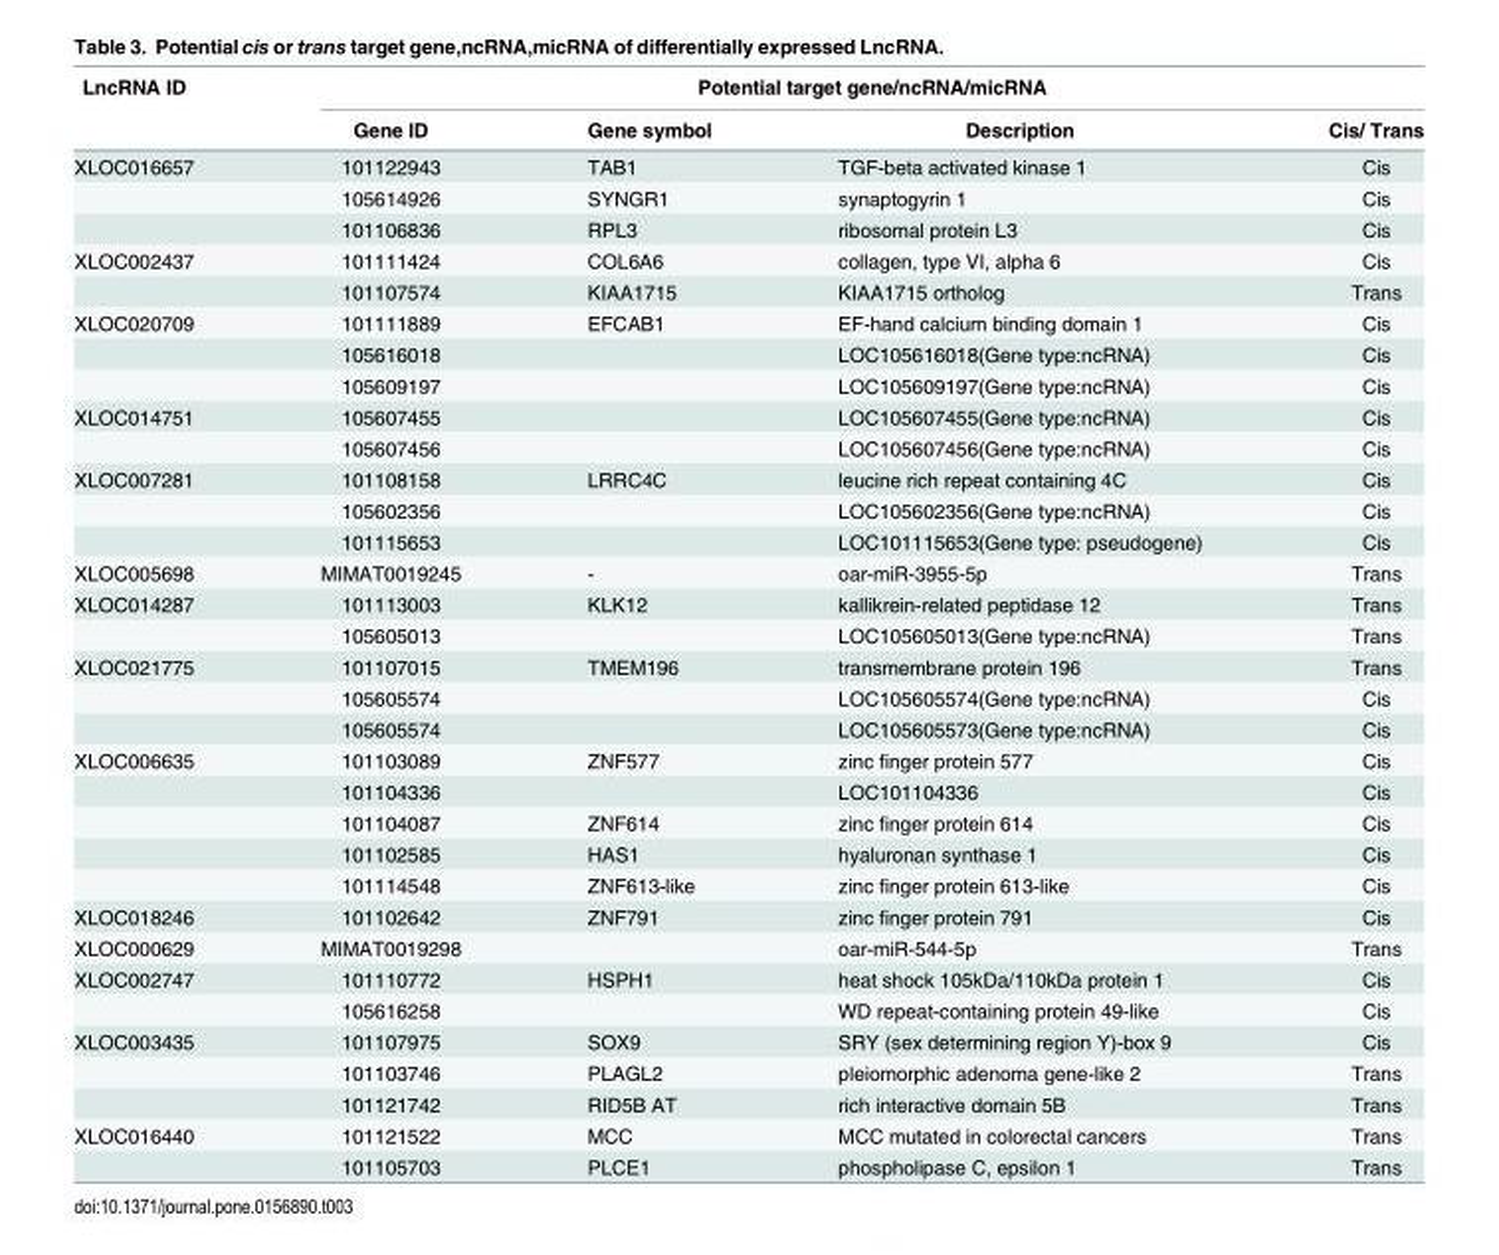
<table><thead><tr><td rowspan="2">LncRNA ID</td><td colspan="4">Potential target gene/ncRNA/micRNA</td></tr><tr><td>Gene ID</td><td>Gene symbol</td><td>Description</td><td>Cis/ Trans</td></tr></thead><tbody><tr><td rowspan="3">XLOC016657</td><td>101122943</td><td>TAB1</td><td>TGF-beta activated kinase 1</td><td>Cis</td></tr><tr><td>105614926</td><td>SYNGR1</td><td>synaptogyrin 1</td><td>Cis</td></tr><tr><td>101106836</td><td>RPL3</td><td>ribosomal protein L3</td><td>Cis</td></tr><tr><td rowspan="2">XLOC002437</td><td>101111424</td><td>COL6A6</td><td>collagen, type VI, alpha 6</td><td>Cis</td></tr><tr><td>101107574</td><td>KIAA1715</td><td>KIAA1715 ortholog</td><td>Trans</td></tr><tr><td rowspan="3">XLOC020709</td><td>101111889</td><td>EFCAB1</td><td>EF-hand calcium binding domain 1</td><td>Cis</td></tr><tr><td>105616018</td><td></td><td>LOC105616018(Gene type:ncRNA)</td><td>Cis</td></tr><tr><td>105609197</td><td></td><td>LOC105609197(Gene type:ncRNA)</td><td>Cis</td></tr><tr><td rowspan="2">XLOC014751</td><td>105607455</td><td></td><td>LOC105607455(Gene type:ncRNA)</td><td>Cis</td></tr><tr><td>105607456</td><td></td><td>LOC105607456(Gene type:ncRNA)</td><td>Cis</td></tr><tr><td rowspan="3">XLOC007281</td><td>101108158</td><td>LRRC4C</td><td>leucine rich repeat containing 4C</td><td>Cis</td></tr><tr><td>105602356</td><td></td><td>LOC105602356(Gene type:ncRNA)</td><td>Cis</td></tr><tr><td>101115653</td><td></td><td>LOC101115653(Gene type: pseudogene)</td><td>Cis</td></tr><tr><td>XLOC005698</td><td>MIMAT0019245</td><td>-</td><td>oar-miR-3955-5p</td><td>Trans</td></tr><tr><td rowspan="2">XLOC014287</td><td>101113003</td><td>KLK12</td><td>kallikrein-related peptidase 12</td><td>Trans</td></tr><tr><td>105605013</td><td></td><td>LOC105605013(Gene type:ncRNA)</td><td>Trans</td></tr><tr><td rowspan="3">XLOC021775</td><td>101107015</td><td>TMEM196</td><td>transmembrane protein 196</td><td>Trans</td></tr><tr><td>105605574</td><td></td><td>LOC105605574(Gene type:ncRNA)</td><td>Cis</td></tr><tr><td>105605574</td><td></td><td>LOC105605573(Gene type:ncRNA)</td><td>Cis</td></tr><tr><td rowspan="5">XLOC006635</td><td>101103089</td><td>ZNF577</td><td>zinc finger protein 577</td><td>Cis</td></tr><tr><td>101104336</td><td></td><td>LOC101104336</td><td>Cis</td></tr><tr><td>101104087</td><td>ZNF614</td><td>zinc finger protein 614</td><td>Cis</td></tr><tr><td>101102585</td><td>HAS1</td><td>hyaluronan synthase 1</td><td>Cis</td></tr><tr><td>101114548</td><td>ZNF613-like</td><td>zinc finger protein 613-like</td><td>Cis</td></tr><tr><td>XLOC018246</td><td>101102642</td><td>ZNF791</td><td>zinc finger protein 791</td><td>Cis</td></tr><tr><td>XLOC000629</td><td>MIMAT0019298</td><td></td><td>oar-miR-544-5p</td><td>Trans</td></tr><tr><td rowspan="2">XLOC002747</td><td>101110772</td><td>HSPH1</td><td>heat shock 105kDa/110kDa protein 1</td><td>Cis</td></tr><tr><td>105616258</td><td></td><td>WD repeat-containing protein 49-like</td><td>Cis</td></tr><tr><td rowspan="3">XLOC003435</td><td>101107975</td><td>SOX9</td><td>SRY (sex determining region Y)-box 9</td><td>Cis</td></tr><tr><td>101103746</td><td>PLAGL2</td><td>pleiomorphic adenoma gene-like 2</td><td>Trans</td></tr><tr><td>101121742</td><td>RID5B AT</td><td>rich interactive domain 5B</td><td>Trans</td></tr><tr><td rowspan="2">XLOC016440</td><td>101121522</td><td>MCC</td><td>MCC mutated in colorectal cancers</td><td>Trans</td></tr><tr><td>101105703</td><td>PLCE1</td><td>phospholipase C, epsilon 1</td><td>Trans</td></tr></tbody></table>